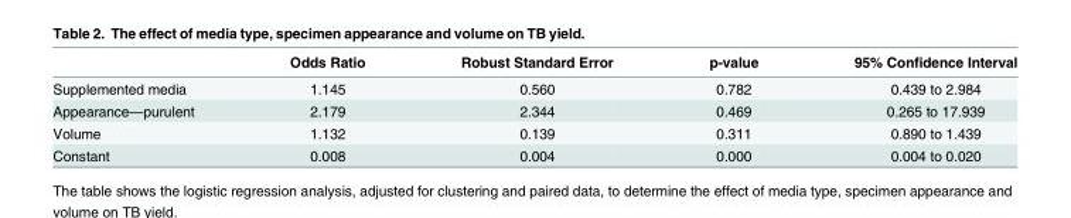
<table><thead><tr><td></td><td>Odds Ratio</td><td>Robust Standard Error</td><td>p-value</td><td>95% Confidence Interval</td></tr></thead><tbody><tr><td>Supplemented media</td><td>1.145</td><td>0.560</td><td>0.782</td><td>0.439 to 2.984</td></tr><tr><td>Appearance—purulent</td><td>2.179</td><td>2.344</td><td>0.469</td><td>0.265 to 17.939</td></tr><tr><td>Volume</td><td>1.132</td><td>0.139</td><td>0.311</td><td>0.890 to 1.439</td></tr><tr><td>Constant</td><td>0.008</td><td>0.004</td><td>0.000</td><td>0.004 to 0.020</td></tr></tbody></table>